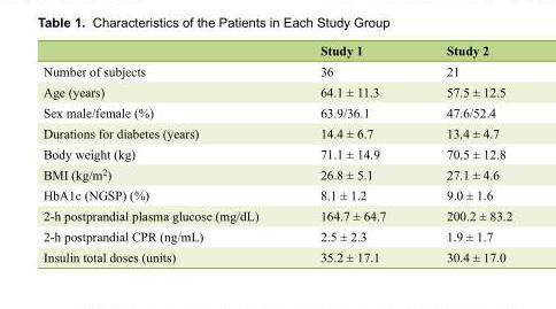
<table><thead><tr><td></td><td>Study 1</td><td>Study 2</td></tr></thead><tbody><tr><td>Number of subjects</td><td>36</td><td>21</td></tr><tr><td>Age (years)</td><td>64.1 ± 11.3</td><td>57.5 ± 12.5</td></tr><tr><td>Sex male/female (%)</td><td>63.9/36.1</td><td>47.6/52.4</td></tr><tr><td>Durations for diabetes (years)</td><td>14.4 ± 6.7</td><td>13.4 ± 4.7</td></tr><tr><td>Body weight (kg)</td><td>71.1 ± 14.9</td><td>70.5 ± 12.8</td></tr><tr><td>BMI (kg/m<sup>2</sup>)</td><td>26.8 ± 5.1</td><td>27.1 ± 4.6</td></tr><tr><td>HbA1c (NGSP) (%)</td><td>8.1 ± 1.2</td><td>9.0 ± 1.6</td></tr><tr><td>2-h postprandial plasma glucose (mg/dL)</td><td>164.7 ± 64.7</td><td>200.2 ± 83.2</td></tr><tr><td>2-h postprandial CPR (ng/mL)</td><td>2.5 ± 2.3</td><td>1.9 ± 1.7</td></tr><tr><td>Insulin total doses (units)</td><td>35.2 ± 17.1</td><td>30.4 ± 17.0</td></tr></tbody></table>